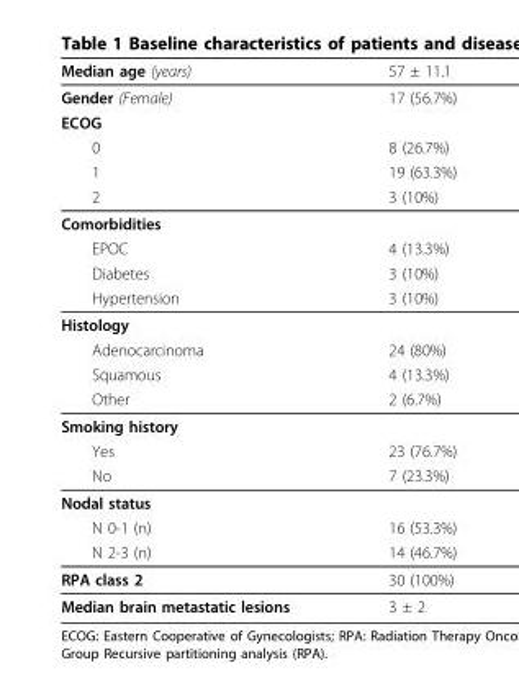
<table><thead><tr><td>Median age (years)</td><td>57 ± 11.1</td></tr></thead><tbody><tr><td>Gender (Female)</td><td>17 (56.7%)</td></tr><tr><td colspan="2">ECOG</td></tr><tr><td>0</td><td>8 (26.7%)</td></tr><tr><td>1</td><td>19 (63.3%)</td></tr><tr><td>2</td><td>3 (10%)</td></tr><tr><td colspan="2">Comorbidities</td></tr><tr><td>EPOC</td><td>4 (13.3%)</td></tr><tr><td>Diabetes</td><td>3 (10%)</td></tr><tr><td>Hypertension</td><td>3 (10%)</td></tr><tr><td colspan="2">Histology</td></tr><tr><td>Adenocarcinoma</td><td>24 (80%)</td></tr><tr><td>Squamous</td><td>4 (13.3%)</td></tr><tr><td>Other</td><td>2 (6.7%)</td></tr><tr><td colspan="2">Smoking history</td></tr><tr><td>Yes</td><td>23 (76.7%)</td></tr><tr><td>No</td><td>7 (23.3%)</td></tr><tr><td colspan="2">Nodal status</td></tr><tr><td>N 0-1 (n)</td><td>16 (53.3%)</td></tr><tr><td>N 2-3 (n)</td><td>14 (46.7%)</td></tr><tr><td>RPA class 2</td><td>30 (100%)</td></tr><tr><td>Median brain metastatic lesions</td><td>3 ± 2</td></tr></tbody></table>